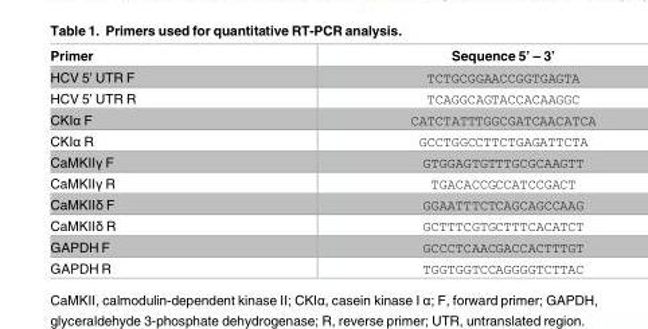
<table><thead><tr><td>Primer</td><td>Sequence 5’ – 3’</td></tr></thead><tbody><tr><td>HCV 5’ UTR F</td><td>TCTGCGGAACCGGTGAGTA</td></tr><tr><td>HCV 5’ UTR R</td><td>TCAGGCAGTACCACAAGGC</td></tr><tr><td>CKIα F</td><td>CATCTATTTGGCGATCAACATCA</td></tr><tr><td>CKIα R</td><td>GCCTGGCCTTCTGAGATTCTA</td></tr><tr><td>CaMKIIγ F</td><td>GTGGAGTGTTTGCGCAAGTT</td></tr><tr><td>CaMKIIγ R</td><td>TGACACCGCCATCCGACT</td></tr><tr><td>CaMKIIδ F</td><td>GGAATTTCTCAGCAGCCAAG</td></tr><tr><td>CaMKIIδ R</td><td>GCTTTCGTGCTTTCACATCT</td></tr><tr><td>GAPDH F</td><td>GCCCTCAACGACCACTTTGT</td></tr><tr><td>GAPDH R</td><td>TGGTGGTCCAGGGGTCTTAC</td></tr></tbody></table>